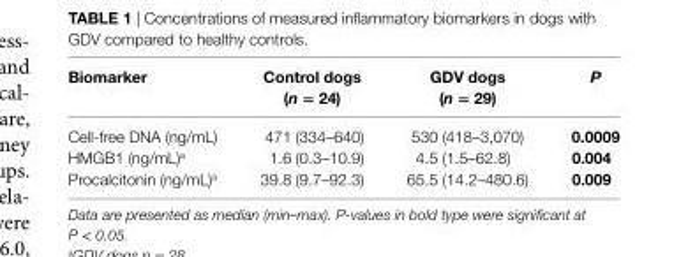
<table><thead><tr><td>Biomarker</td><td>control dogs (n = 24)</td><td>gDV dogs (n = 29)</td><td>P</td></tr></thead><tbody><tr><td>Cell-free DNA (ng/mL)</td><td>471 (334–640)</td><td>530 (418–3,070)</td><td>0.0009</td></tr><tr><td>HMGB1 (ng/mL)<sup>a</sup></td><td>1.6 (0.3–10.9)</td><td>4.5 (1.5–62.8)</td><td>0.004</td></tr><tr><td>Procalcitonin (ng/mL)<sup>a</sup></td><td>39.8 (9.7–92.3)</td><td>65.5 (14.2–480.6)</td><td>0.009</td></tr></tbody></table>